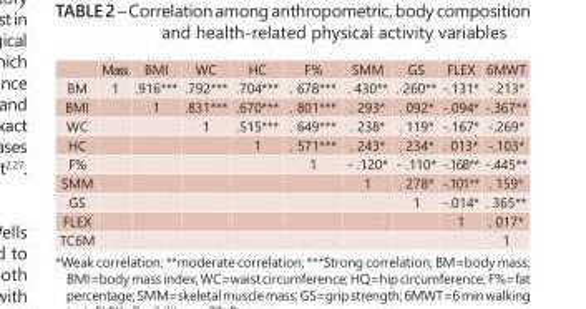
<table><thead><tr><td></td><td>Mass</td><td>BMI</td><td>WC</td><td>HC</td><td>F%</td><td>SMM</td><td>GS</td><td>FLEX</td><td>6MWT</td></tr></thead><tbody><tr><td>BM</td><td>1</td><td>.916***</td><td>.792***</td><td>.704***</td><td>. 678***</td><td>. 430**</td><td>. 260**</td><td>-.131*</td><td>-.213*</td></tr><tr><td>BMI</td><td></td><td>1</td><td>.831***</td><td>.670***</td><td>. 801***</td><td>. 293*</td><td>. 092*</td><td>-.094*</td><td>-.367**</td></tr><tr><td>WC</td><td></td><td></td><td>1</td><td>.515***</td><td>. 649***</td><td>. 238*</td><td>. 119*</td><td>-.167*</td><td>-.269*</td></tr><tr><td>HC</td><td></td><td></td><td></td><td>1</td><td>. 571***</td><td>. 243*</td><td>. 234*</td><td>. 013*</td><td>-.103*</td></tr><tr><td>F%</td><td></td><td></td><td></td><td></td><td>1</td><td>- .120*</td><td>- .110*</td><td>-.168**</td><td>-.445**</td></tr><tr><td>SMM</td><td></td><td></td><td></td><td></td><td></td><td>1</td><td>. 278*</td><td>-.101**</td><td>. 159*</td></tr><tr><td>GS</td><td></td><td></td><td></td><td></td><td></td><td></td><td>1</td><td>-.014*</td><td>. 365**</td></tr><tr><td>FLEX</td><td></td><td></td><td></td><td></td><td></td><td></td><td></td><td>1</td><td>. 017*</td></tr><tr><td>TC6M</td><td></td><td></td><td></td><td></td><td></td><td></td><td></td><td></td><td>1</td></tr></tbody></table>